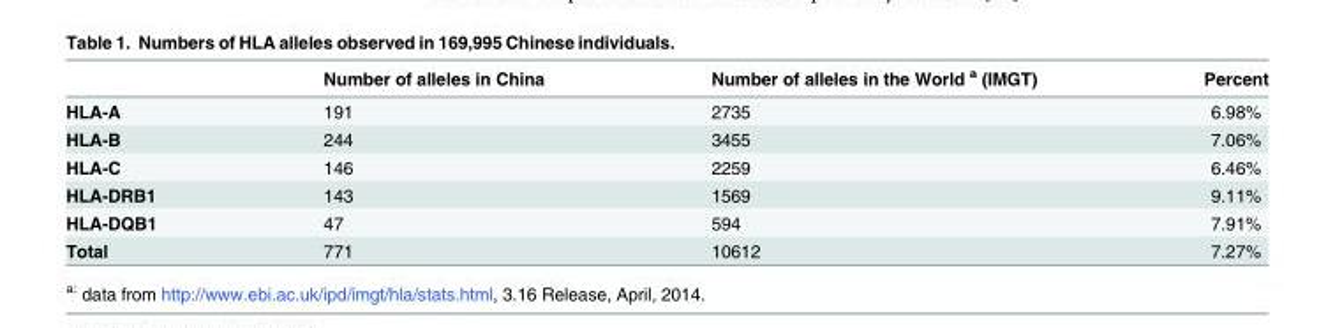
<table><thead><tr><td></td><td>Number of alleles in China</td><td>Number of alleles in the World <sup>a</sup> (IMGT)</td><td>Percent</td></tr></thead><tbody><tr><td>HLA-A</td><td>191</td><td>2735</td><td>6.98%</td></tr><tr><td>HLA-B</td><td>244</td><td>3455</td><td>7.06%</td></tr><tr><td>HLA-C</td><td>146</td><td>2259</td><td>6.46%</td></tr><tr><td>HLA-DRB1</td><td>143</td><td>1569</td><td>9.11%</td></tr><tr><td>HLA-DQB1</td><td>47</td><td>594</td><td>7.91%</td></tr><tr><td>Total</td><td>771</td><td>10612</td><td>7.27%</td></tr></tbody></table>